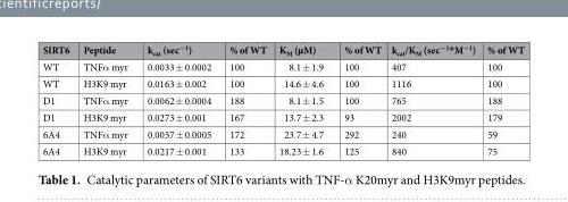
<table><thead><tr><td>SIRT6</td><td>Peptide</td><td>k<sub>cat</sub> (sec<sup>−1</sup>)</td><td>% of WT</td><td>K<sub>M</sub> (µM)</td><td>% of WT</td><td>k<sub>cat</sub>/K<sub>M</sub> (sec<sup>−1</sup>*M<sup>−1</sup>)</td><td>% of WT</td></tr></thead><tbody><tr><td>WT</td><td>TNFα myr</td><td>0.0033 ± 0.0002</td><td>100</td><td>8.1 ± 1.9</td><td>100</td><td>407</td><td>100</td></tr><tr><td>WT</td><td>H3K9 myr</td><td>0.0163 ± 0.002</td><td>100</td><td>14.6 ± 4.6</td><td>100</td><td>1116</td><td>100</td></tr><tr><td>D1</td><td>TNFα myr</td><td>0.0062 ± 0.0004</td><td>188</td><td>8.1 ± 1.5</td><td>100</td><td>765</td><td>188</td></tr><tr><td>D1</td><td>H3K9 myr</td><td>0.0273 ± 0.001</td><td>167</td><td>13.7 ± 2.3</td><td>93</td><td>2002</td><td>179</td></tr><tr><td>6A4</td><td>TNFα myr</td><td>0.0057 ± 0.0005</td><td>172</td><td>23.7 ± 4.7</td><td>292</td><td>240</td><td>59</td></tr><tr><td>6A4</td><td>H3K9 myr</td><td>0.0217 ± 0.001</td><td>133</td><td>18.23 ± 1.6</td><td>125</td><td>840</td><td>75</td></tr></tbody></table>